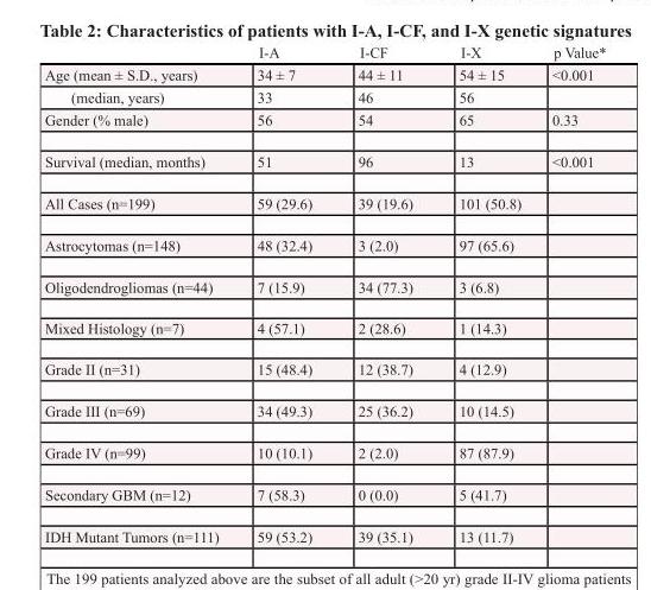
<table><thead><tr><td></td><td>I-A</td><td>I-CF</td><td>I-X</td><td>p Value*</td></tr></thead><tbody><tr><td>Age (mean ± S.D., years)</td><td>34 ± 7</td><td>44 ± 11</td><td>54 ± 15</td><td>&lt;0.001</td></tr><tr><td>(median, years)</td><td>33</td><td>46</td><td>56</td><td></td></tr><tr><td>Gender (% male)</td><td>56</td><td>54</td><td>65</td><td>0.33</td></tr><tr><td>Survival (median, months)</td><td>51</td><td>96</td><td>13</td><td>&lt;0.001</td></tr><tr><td>All Cases (n=199)</td><td>59 (29.6)</td><td>39 (19.6)</td><td>101 (50.8)</td><td></td></tr><tr><td>Astrocytomas (n=148)</td><td>48 (32.4)</td><td>3 (2.0)</td><td>97 (65.6)</td><td></td></tr><tr><td>Oligodendrogliomas (n=44)</td><td>7 (15.9)</td><td>34 (77.3)</td><td>3 (6.8)</td><td></td></tr><tr><td>Mixed Histology (n=7)</td><td>4 (57.1)</td><td>2 (28.6)</td><td>1 (14.3)</td><td></td></tr><tr><td>Grade II (n=31)</td><td>15 (48.4)</td><td>12 (38.7)</td><td>4 (12.9)</td><td></td></tr><tr><td>Grade III (n=69)</td><td>34 (49.3)</td><td>25 (36.2)</td><td>10 (14.5)</td><td></td></tr><tr><td>Grade IV (n=99)</td><td>10 (10.1)</td><td>2 (2.0)</td><td>87 (87.9)</td><td></td></tr><tr><td>Secondary GBM (n=12)</td><td>7 (58.3)</td><td>0 (0.0)</td><td>5 (41.7)</td><td></td></tr><tr><td>IDH Mutant Tumors (n=111)</td><td>59 (53.2)</td><td>39 (35.1)</td><td>13 (11.7)</td><td></td></tr></tbody></table>